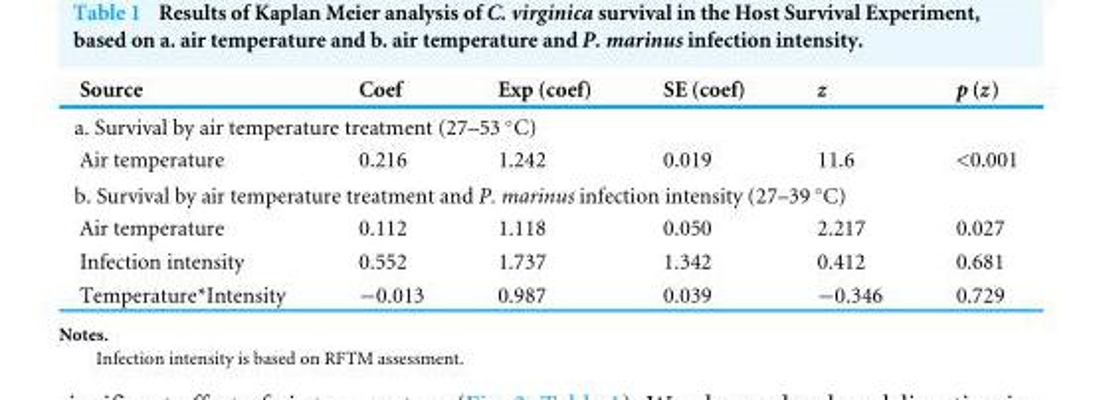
<table><thead><tr><td>Source</td><td>Coef</td><td>Exp (coef)</td><td>SE (coef)</td><td>z</td><td>p (z)</td></tr></thead><tbody><tr><td colspan="6">a. Survival by air temperature treatment (27–53 ◦C)</td></tr><tr><td>Air temperature</td><td>0.216</td><td>1.242</td><td>0.019</td><td>11.6</td><td>&lt;0.001</td></tr><tr><td colspan="6">b. Survival by air temperature treatment and P. marinus infection intensity (27–39 ◦C)</td></tr><tr><td>Air temperature</td><td>0.112</td><td>1.118</td><td>0.050</td><td>2.217</td><td>0.027</td></tr><tr><td>Infection intensity</td><td>0.552</td><td>1.737</td><td>1.342</td><td>0.412</td><td>0.681</td></tr><tr><td>Temperature*Intensity</td><td>−0.013</td><td>0.987</td><td>0.039</td><td>−0.346</td><td>0.729</td></tr></tbody></table>